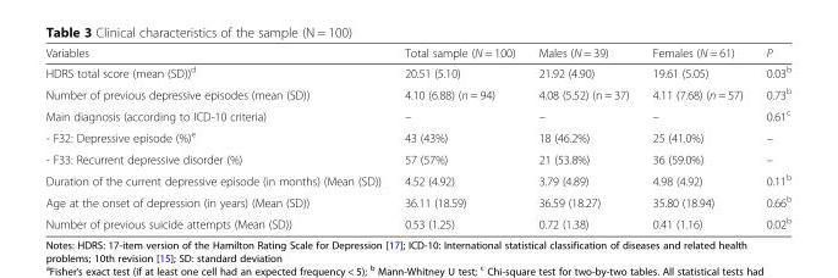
<table><thead><tr><td>Variables</td><td>Total sample (N = 100)</td><td>Males (N = 39)</td><td>Females (N = 61)</td><td>P</td></tr></thead><tbody><tr><td>HDRS total score (mean (SD))<sup>d</sup></td><td>20.51 (5.10)</td><td>21.92 (4.90)</td><td>19.61 (5.05)</td><td>0.03<sup>b</sup></td></tr><tr><td>Number of previous depressive episodes (mean (SD))</td><td>4.10 (6.88) (n = 94)</td><td>4.08 (5.52) (n = 37)</td><td>4.11 (7.68) (n = 57)</td><td>0.73<sup>b</sup></td></tr><tr><td>Main diagnosis (according to ICD-10 criteria)</td><td>–</td><td>–</td><td>–</td><td>0.61<sup>c</sup></td></tr><tr><td>- F32: Depressive episode (%)<sup>e</sup></td><td>43 (43%)</td><td>18 (46.2%)</td><td>25 (41.0%)</td><td>–</td></tr><tr><td>- F33: Recurrent depressive disorder (%)</td><td>57 (57%)</td><td>21 (53.8%)</td><td>36 (59.0%)</td><td>–</td></tr><tr><td>Duration of the current depressive episode (in months) (Mean (SD))</td><td>4.52 (4.92)</td><td>3.79 (4.89)</td><td>4.98 (4.92)</td><td>0.11<sup>b</sup></td></tr><tr><td>Age at the onset of depression (in years) (Mean (SD))</td><td>36.11 (18.59)</td><td>36.59 (18.27)</td><td>35.80 (18.94)</td><td>0.66<sup>b</sup></td></tr><tr><td>Number of previous suicide attempts (Mean (SD))</td><td>0.53 (1.25)</td><td>0.72 (1.38)</td><td>0.41 (1.16)</td><td>0.02<sup>b</sup></td></tr></tbody></table>